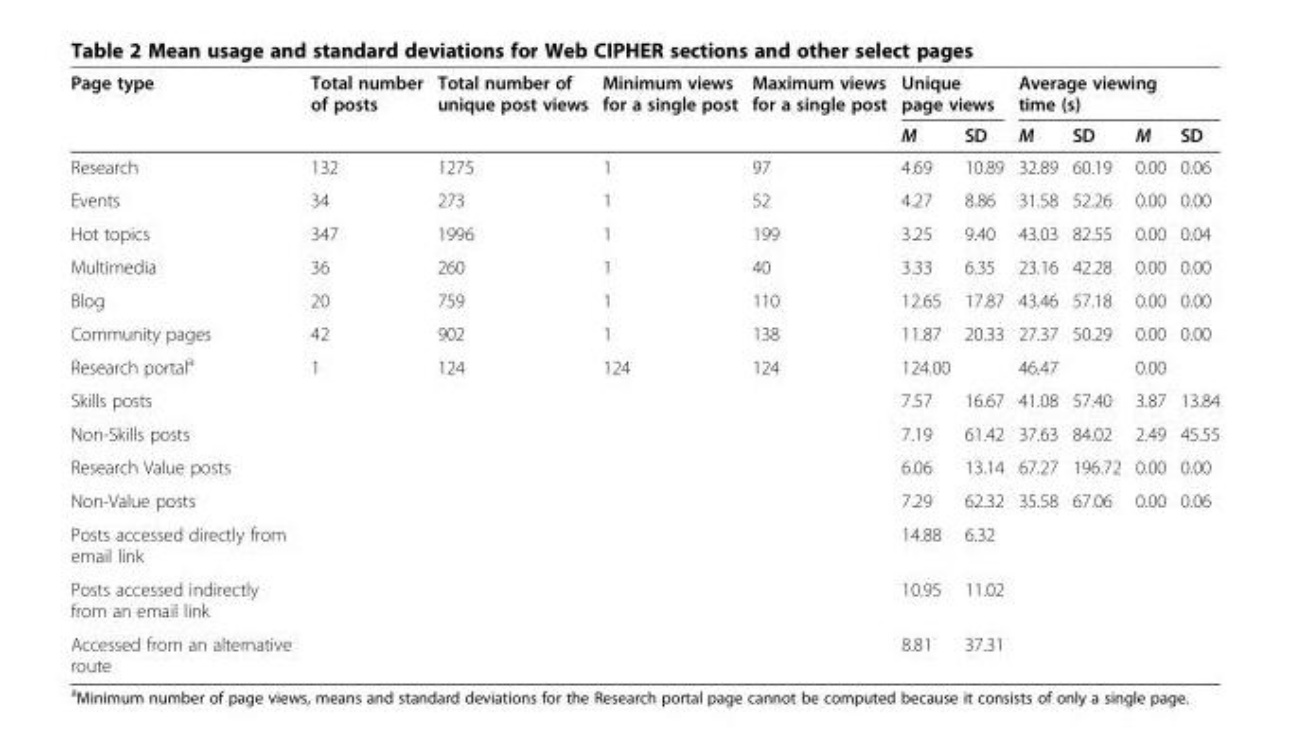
<table><thead><tr><td rowspan="2">Page type</td><td rowspan="2">Total number of posts</td><td rowspan="2">Total number of unique post views</td><td rowspan="2">Minimum views for a single post</td><td rowspan="2">Maximum views for a single post</td><td colspan="2">Unique page views</td><td colspan="4">Average viewing time (s)</td></tr><tr><td>M</td><td>SD</td><td>M</td><td>SD</td><td>M</td><td>SD</td></tr></thead><tbody><tr><td>Research</td><td>132</td><td>1275</td><td>1</td><td>97</td><td>4.69</td><td>10.89</td><td>32.89</td><td>60.19</td><td>0.00</td><td>0.06</td></tr><tr><td>Events</td><td>34</td><td>273</td><td>1</td><td>52</td><td>4.27</td><td>8.86</td><td>31.58</td><td>52.26</td><td>0.00</td><td>0.00</td></tr><tr><td>Hot topics</td><td>347</td><td>1996</td><td>1</td><td>199</td><td>3.25</td><td>9.40</td><td>43.03</td><td>82.55</td><td>0.00</td><td>0.04</td></tr><tr><td>Multimedia</td><td>36</td><td>260</td><td>1</td><td>40</td><td>3.33</td><td>6.35</td><td>23.16</td><td>42.28</td><td>0.00</td><td>0.00</td></tr><tr><td>Blog</td><td>20</td><td>759</td><td>1</td><td>110</td><td>12.65</td><td>17.87</td><td>43.46</td><td>57.18</td><td>0.00</td><td>0.00</td></tr><tr><td>Community pages</td><td>42</td><td>902</td><td>1</td><td>138</td><td>11.87</td><td>20.33</td><td>27.37</td><td>50.29</td><td>0.00</td><td>0.00</td></tr><tr><td>Research portal<sup>a</sup></td><td>1</td><td>124</td><td>124</td><td>124</td><td>124.00</td><td></td><td>46.47</td><td></td><td>0.00</td><td></td></tr><tr><td>Skills posts</td><td></td><td></td><td></td><td></td><td>7.57</td><td>16.67</td><td>41.08</td><td>57.40</td><td>3.87</td><td>13.84</td></tr><tr><td>Non-Skills posts</td><td></td><td></td><td></td><td></td><td>7.19</td><td>61.42</td><td>37.63</td><td>84.02</td><td>2.49</td><td>45.55</td></tr><tr><td>Research Value posts</td><td></td><td></td><td></td><td></td><td>6.06</td><td>13.14</td><td>67.27</td><td>196.72</td><td>0.00</td><td>0.00</td></tr><tr><td>Non-Value posts</td><td></td><td></td><td></td><td></td><td>7.29</td><td>62.32</td><td>35.58</td><td>67.06</td><td>0.00</td><td>0.06</td></tr><tr><td>Posts accessed directly from email link</td><td></td><td></td><td></td><td></td><td>14.88</td><td>6.32</td><td></td><td></td><td></td><td></td></tr><tr><td>Posts accessed indirectly from an email link</td><td></td><td></td><td></td><td></td><td>10.95</td><td>11.02</td><td></td><td></td><td></td><td></td></tr><tr><td>Accessed from an alternative route</td><td></td><td></td><td></td><td></td><td>8.81</td><td>37.31</td><td></td><td></td><td></td><td></td></tr></tbody></table>